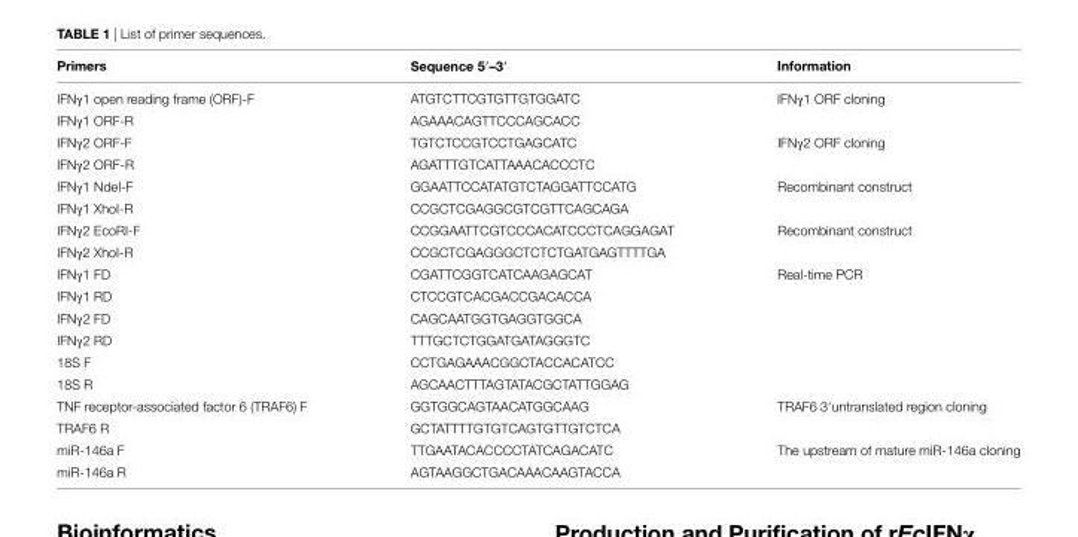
<table><thead><tr><td>Primers</td><td>sequence 5′–3′</td><td>information</td></tr></thead><tbody><tr><td>IFNγ1 open reading frame (ORF)-F</td><td>ATGTCTTCGTGTTGTGGATC</td><td>IFNγ1 ORF cloning</td></tr><tr><td>IFNγ1 ORF-R</td><td>AGAAACAGTTCCCAGCACC</td><td></td></tr><tr><td>IFNγ2 ORF-F</td><td>TGTCTCCGTCCTGAGCATC</td><td>IFNγ2 ORF cloning</td></tr><tr><td>IFNγ2 ORF-R</td><td>AGATTTGTCATTAAACACCCTC</td><td></td></tr><tr><td>IFNγ1 NdeI-F</td><td>GGAATTCCATATGTCTAGGATTCCATG</td><td>Recombinant construct</td></tr><tr><td>IFNγ1 XhoI-R</td><td>CCGCTCGAGGCGTCGTTCAGCAGA</td><td></td></tr><tr><td>IFNγ2 EcoRI-F</td><td>CCGGAATTCGTCCCACATCCCTCAGGAGAT</td><td>Recombinant construct</td></tr><tr><td>IFNγ2 XhoI-R</td><td>CCGCTCGAGGGCTCTCTGATGAGTTTTGA</td><td></td></tr><tr><td>IFNγ1 FD</td><td>CGATTCGGTCATCAAGAGCAT</td><td rowspan="6">Real-time PCR</td></tr><tr><td>IFNγ1 RD</td><td>CTCCGTCACGACCGACACCA</td></tr><tr><td>IFNγ2 FD</td><td>CAGCAATGGTGAGGTGGCA</td></tr><tr><td>IFNγ2 RD</td><td>TTTGCTCTGGATGATAGGGTC</td></tr><tr><td>18S F</td><td>CCTGAGAAACGGCTACCACATCC</td></tr><tr><td>18S R</td><td>AGCAACTTTAGTATACGCTATTGGAG</td></tr><tr><td>TNF receptor-associated factor 6 (TRAF6) F</td><td>GGTGGCAGTAACATGGCAAG</td><td>TRAF6 3′untranslated region cloning</td></tr><tr><td>TRAF6 R</td><td>GCTATTTTGTGTCAGTGTTGTCTCA</td><td></td></tr><tr><td>miR-146a F</td><td>TTGAATACACCCCTATCAGACATC</td><td rowspan="2">The upstream of mature miR-146a cloning</td></tr><tr><td>miR-146a R</td><td>AGTAAGGCTGACAAACAAGTACCA</td></tr></tbody></table>